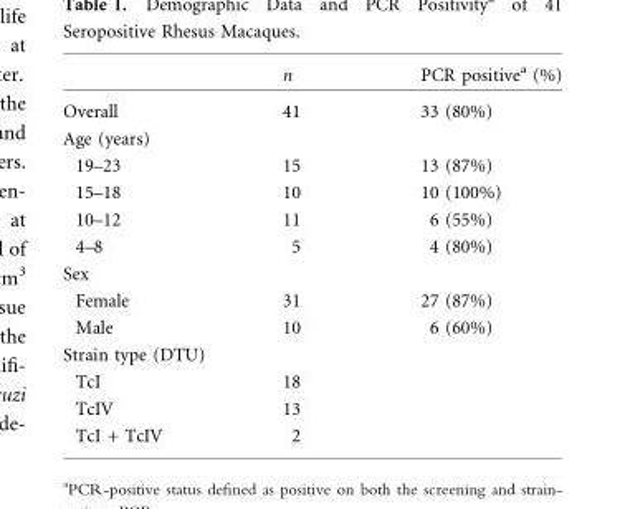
<table><thead><tr><td></td><td>n</td><td>PCR positive<sup>a</sup> (%)</td></tr></thead><tbody><tr><td>Overall</td><td>41</td><td>33 (80%)</td></tr><tr><td colspan="3">Age (years)</td></tr><tr><td>19–23</td><td>15</td><td>13 (87%)</td></tr><tr><td>15–18</td><td>10</td><td>10 (100%)</td></tr><tr><td>10–12</td><td>11</td><td>6 (55%)</td></tr><tr><td>4–8</td><td>5</td><td>4 (80%)</td></tr><tr><td colspan="3">Sex</td></tr><tr><td>Female</td><td>31</td><td>27 (87%)</td></tr><tr><td>Male</td><td>10</td><td>6 (60%)</td></tr><tr><td colspan="3">Strain type (DTU)</td></tr><tr><td>TcI</td><td>18</td><td></td></tr><tr><td>TcIV</td><td>13</td><td></td></tr><tr><td>TcI + TcIV</td><td>2</td><td></td></tr></tbody></table>